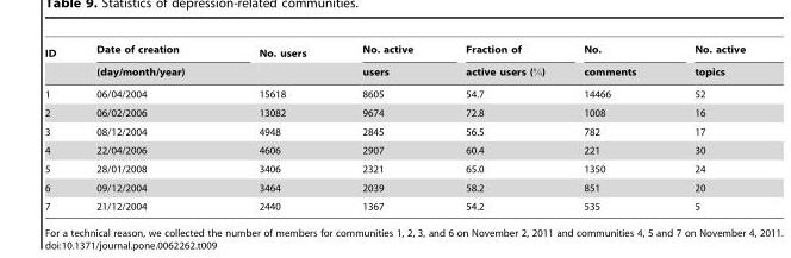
<table><thead><tr><td rowspan="2">ID</td><td rowspan="2">Date of creation (day/month/year)</td><td rowspan="2">No. users</td><td rowspan="2">No. active users</td><td rowspan="2">Fraction of active users (%)</td><td rowspan="2">No. comments</td><td rowspan="2">No. active topics</td></tr><tr></tr></thead><tbody><tr><td>1</td><td>06/04/2004</td><td>15618</td><td>8605</td><td>54.7</td><td>14466</td><td>52</td></tr><tr><td>2</td><td>06/02/2006</td><td>13082</td><td>9674</td><td>72.8</td><td>1008</td><td>16</td></tr><tr><td>3</td><td>08/12/2004</td><td>4948</td><td>2845</td><td>56.5</td><td>782</td><td>17</td></tr><tr><td>4</td><td>22/04/2006</td><td>4606</td><td>2907</td><td>60.4</td><td>221</td><td>30</td></tr><tr><td>5</td><td>28/01/2008</td><td>3406</td><td>2321</td><td>65.0</td><td>1350</td><td>24</td></tr><tr><td>6</td><td>09/12/2004</td><td>3464</td><td>2039</td><td>58.2</td><td>851</td><td>20</td></tr><tr><td>7</td><td>21/12/2004</td><td>2440</td><td>1367</td><td>54.2</td><td>535</td><td>5</td></tr></tbody></table>